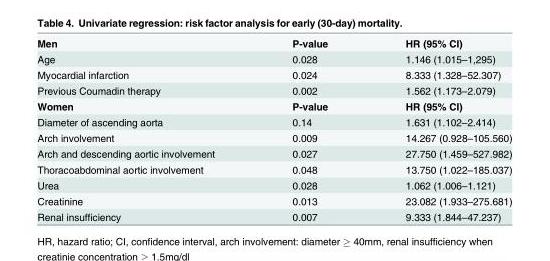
<table><tbody><tr><td>Men</td><td>P-value</td><td>HR (95% CI)</td></tr><tr><td>Age</td><td>0.028</td><td>1.146 (1.015–1,295)</td></tr><tr><td>Myocardial infarction</td><td>0.024</td><td>8.333 (1.328–52.307)</td></tr><tr><td>Previous Coumadin therapy</td><td>0.002</td><td>1.562 (1.173–2.079)</td></tr><tr><td>Women</td><td>P-value</td><td>HR (95% CI)</td></tr><tr><td>Diameter of ascending aorta</td><td>0.14</td><td>1.631 (1.102–2.414)</td></tr><tr><td>Arch involvement</td><td>0.009</td><td>14.267 (0.928–105.560)</td></tr><tr><td>Arch and descending aortic involvement</td><td>0.027</td><td>27.750 (1.459–527.982)</td></tr><tr><td>Thoracoabdominal aortic involvement</td><td>0.048</td><td>13.750 (1.022–185.037)</td></tr><tr><td>Urea</td><td>0.028</td><td>1.062 (1.006–1.121)</td></tr><tr><td>Creatinine</td><td>0.013</td><td>23.082 (1.933–275.681)</td></tr><tr><td>Renal insufficiency</td><td>0.007</td><td>9.333 (1.844–47.237)</td></tr></tbody></table>